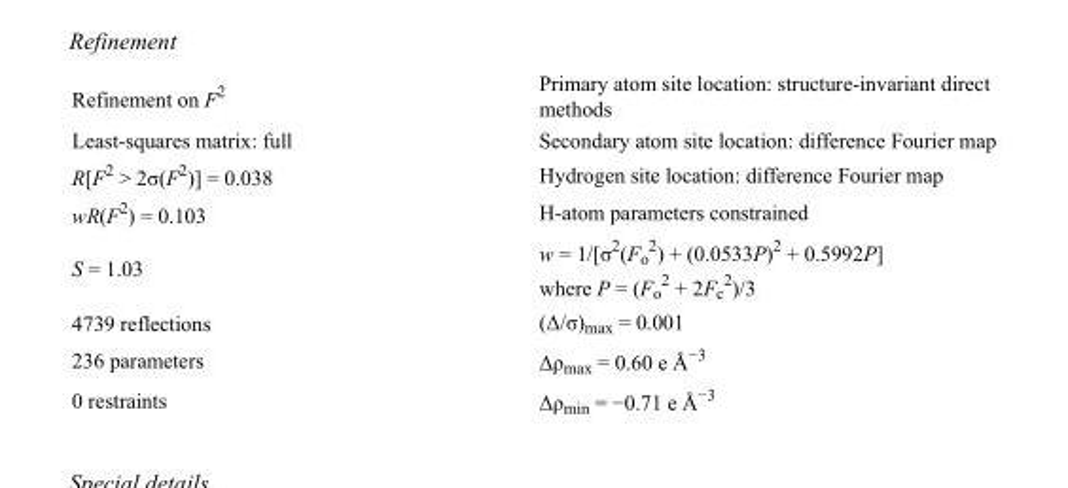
<table><tbody><tr><td>Refinement on F<sup>2</sup></td><td>Primary atom site location: structure-invariant direct methods</td></tr><tr><td>Least-squares matrix: full</td><td>Secondary atom site location: difference Fourier map</td></tr><tr><td>R[F<sup>2</sup> &gt; 2σ(F<sup>2</sup>)] = 0.038</td><td>Hydrogen site location: difference Fourier map</td></tr><tr><td>wR(F<sup>2</sup>) = 0.103</td><td>H-atom parameters constrained</td></tr><tr><td>S = 1.03</td><td>w = 1/[σ<sup>2</sup>(F<sub>o</sub> <sup>2</sup>) + (0.0533P)<sup>2</sup> + 0.5992P] where P = (F<sub>o</sub> <sup>2</sup> + 2F<sub>c</sub> <sup>2</sup>)/3</td></tr><tr><td>4739 reflections</td><td>(Δ/σ)<sub>max</sub> = 0.001</td></tr><tr><td>236 parameters</td><td>Δρ<sub>max</sub> = 0.60 e Å<sup>−3</sup></td></tr><tr><td>0 restraints</td><td>Δρ<sub>min</sub> = −0.71 e Å<sup>−3</sup></td></tr></tbody></table>